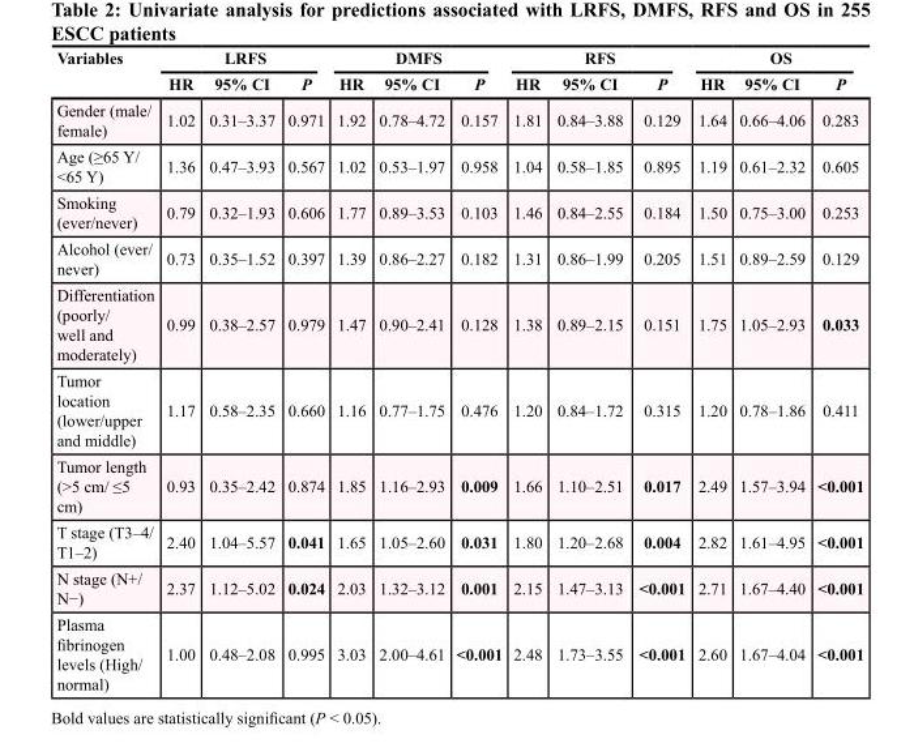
<table><thead><tr><td rowspan="2">Variables</td><td colspan="3">LRFS</td><td colspan="3">DMFS</td><td colspan="3">RFS</td><td colspan="3">OS</td></tr><tr><td>HR</td><td>95% CI</td><td>P</td><td>HR</td><td>95% CI</td><td>P</td><td>HR</td><td>95% CI</td><td>P</td><td>HR</td><td>95% CI</td><td>P</td></tr></thead><tbody><tr><td>Gender (male/ female)</td><td>1.02</td><td>0.31–3.37</td><td>0.971</td><td>1.92</td><td>0.78–4.72</td><td>0.157</td><td>1.81</td><td>0.84–3.88</td><td>0.129</td><td>1.64</td><td>0.66–4.06</td><td>0.283</td></tr><tr><td>Age (≥65 Y/ &lt;65 Y)</td><td>1.36</td><td>0.47–3.93</td><td>0.567</td><td>1.02</td><td>0.53–1.97</td><td>0.958</td><td>1.04</td><td>0.58–1.85</td><td>0.895</td><td>1.19</td><td>0.61–2.32</td><td>0.605</td></tr><tr><td>Smoking (ever/never)</td><td>0.79</td><td>0.32–1.93</td><td>0.606</td><td>1.77</td><td>0.89–3.53</td><td>0.103</td><td>1.46</td><td>0.84–2.55</td><td>0.184</td><td>1.50</td><td>0.75–3.00</td><td>0.253</td></tr><tr><td>Alcohol (ever/ never)</td><td>0.73</td><td>0.35–1.52</td><td>0.397</td><td>1.39</td><td>0.86–2.27</td><td>0.182</td><td>1.31</td><td>0.86–1.99</td><td>0.205</td><td>1.51</td><td>0.89–2.59</td><td>0.129</td></tr><tr><td>Differentiation (poorly/ well and moderately)</td><td>0.99</td><td>0.38–2.57</td><td>0.979</td><td>1.47</td><td>0.90–2.41</td><td>0.128</td><td>1.38</td><td>0.89–2.15</td><td>0.151</td><td>1.75</td><td>1.05–2.93</td><td>0.033</td></tr><tr><td>Tumor location (lower/upper and middle)</td><td>1.17</td><td>0.58–2.35</td><td>0.660</td><td>1.16</td><td>0.77–1.75</td><td>0.476</td><td>1.20</td><td>0.84–1.72</td><td>0.315</td><td>1.20</td><td>0.78–1.86</td><td>0.411</td></tr><tr><td>Tumor length (&gt;5 cm/ ≤5 cm)</td><td>0.93</td><td>0.35–2.42</td><td>0.874</td><td>1.85</td><td>1.16–2.93</td><td>0.009</td><td>1.66</td><td>1.10–2.51</td><td>0.017</td><td>2.49</td><td>1.57–3.94</td><td>&lt;0.001</td></tr><tr><td>T stage (T3–4/ T1–2)</td><td>2.40</td><td>1.04–5.57</td><td>0.041</td><td>1.65</td><td>1.05–2.60</td><td>0.031</td><td>1.80</td><td>1.20–2.68</td><td>0.004</td><td>2.82</td><td>1.61–4.95</td><td>&lt;0.001</td></tr><tr><td>N stage (N+/ N−)</td><td>2.37</td><td>1.12–5.02</td><td>0.024</td><td>2.03</td><td>1.32–3.12</td><td>0.001</td><td>2.15</td><td>1.47–3.13</td><td>&lt;0.001</td><td>2.71</td><td>1.67–4.40</td><td>&lt;0.001</td></tr><tr><td>Plasma fibrinogen levels (High/ normal)</td><td>1.00</td><td>0.48–2.08</td><td>0.995</td><td>3.03</td><td>2.00–4.61</td><td>&lt;0.001</td><td>2.48</td><td>1.73–3.55</td><td>&lt;0.001</td><td>2.60</td><td>1.67–4.04</td><td>&lt;0.001</td></tr></tbody></table>